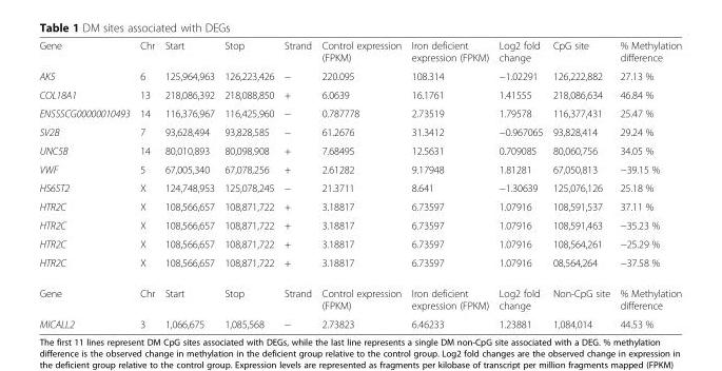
<table><tbody><tr><td>Gene</td><td>Chr</td><td>Start</td><td>Stop</td><td>Strand</td><td>Control expression (FPKM)</td><td>Iron deficient expression (FPKM)</td><td>Log2 fold change</td><td>CpG site</td><td>% Methylation difference</td></tr><tr><td>AK5</td><td>6</td><td>125,964,963</td><td>126,223,426</td><td>−</td><td>220.095</td><td>108.314</td><td>−1.02291</td><td>126,222,882</td><td>27.13 %</td></tr><tr><td>COL18A1</td><td>13</td><td>218,086,392</td><td>218,088,850</td><td>+</td><td>6.0639</td><td>16.1761</td><td>1.41555</td><td>218,086,634</td><td>46.84 %</td></tr><tr><td>ENSSSCG00000010493</td><td>14</td><td>116,376,967</td><td>116,425,960</td><td>−</td><td>0.787778</td><td>2.73519</td><td>1.79578</td><td>116,377,431</td><td>25.47 %</td></tr><tr><td>SV2B</td><td>7</td><td>93,628,494</td><td>93,828,585</td><td>−</td><td>61.2676</td><td>31.3412</td><td>−0.967065</td><td>93,828,414</td><td>29.24 %</td></tr><tr><td>UNC5B</td><td>14</td><td>80,010,893</td><td>80,098,908</td><td>+</td><td>7.68495</td><td>12.5631</td><td>0.709085</td><td>80,060,756</td><td>34.05 %</td></tr><tr><td>VWF</td><td>5</td><td>67,005,340</td><td>67,078,256</td><td>+</td><td>2.61282</td><td>9.17948</td><td>1.81281</td><td>67,050,813</td><td>−39.15 %</td></tr><tr><td>HS6ST2</td><td>X</td><td>124,748,953</td><td>125,078,245</td><td>−</td><td>21.3711</td><td>8.641</td><td>−1.30639</td><td>125,076,126</td><td>25.18 %</td></tr><tr><td>HTR2C</td><td>X</td><td>108,566,657</td><td>108,871,722</td><td>+</td><td>3.18817</td><td>6.73597</td><td>1.07916</td><td>108,591,537</td><td>37.11 %</td></tr><tr><td>HTR2C</td><td>X</td><td>108,566,657</td><td>108,871,722</td><td>+</td><td>3.18817</td><td>6.73597</td><td>1.07916</td><td>108,591,463</td><td>−35.23 %</td></tr><tr><td>HTR2C</td><td>X</td><td>108,566,657</td><td>108,871,722</td><td>+</td><td>3.18817</td><td>6.73597</td><td>1.07916</td><td>108,564,261</td><td>−25.29 %</td></tr><tr><td>HTR2C</td><td>X</td><td>108,566,657</td><td>108,871,722</td><td>+</td><td>3.18817</td><td>6.73597</td><td>1.07916</td><td>08,564,264</td><td>−37.58 %</td></tr><tr><td>Gene</td><td>Chr</td><td>Start</td><td>Stop</td><td>Strand</td><td>Control expression (FPKM)</td><td>Iron deficient expression (FPKM)</td><td>Log2 fold change</td><td>Non-CpG site</td><td>% Methylation difference</td></tr><tr><td>MICALL2</td><td>3</td><td>1,066,675</td><td>1,085,568</td><td>−</td><td>2.73823</td><td>6.46233</td><td>1.23881</td><td>1,084,014</td><td>44.53 %</td></tr></tbody></table>